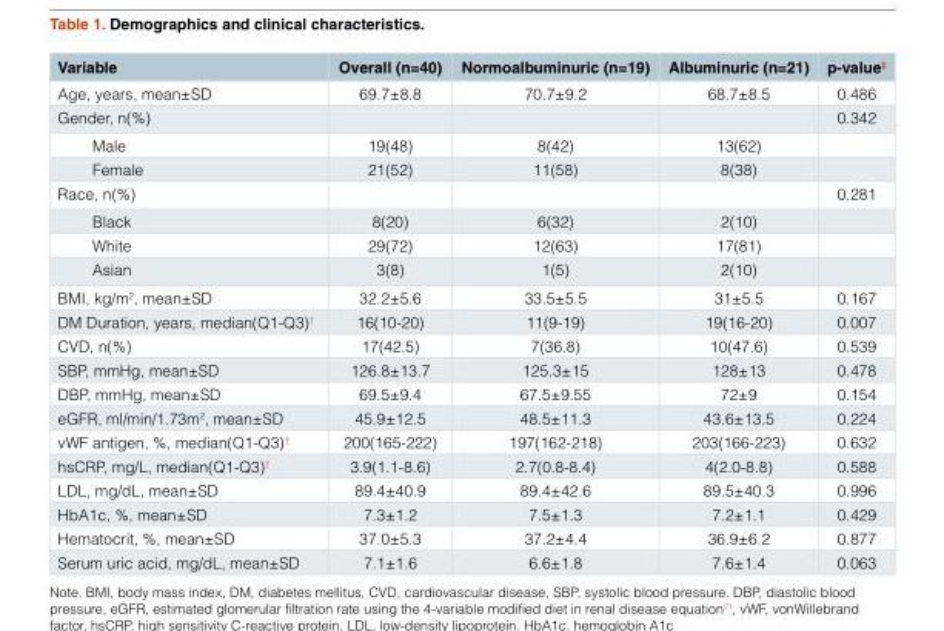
<table><thead><tr><td>Variable</td><td>Overall (n=40)</td><td>Normoalbuminuric (n=19)</td><td>Albuminuric (n=21)</td><td>p-value<sup>‡</sup></td></tr></thead><tbody><tr><td>Age, years, mean±SD</td><td>69.7±8.8</td><td>70.7±9.2</td><td>68.7±8.5</td><td>0.486</td></tr><tr><td>Gender, n(%)</td><td></td><td></td><td></td><td>0.342</td></tr><tr><td>Male</td><td>19(48)</td><td>8(42)</td><td>13(62)</td><td></td></tr><tr><td>Female</td><td>21(52)</td><td>11(58)</td><td>8(38)</td><td></td></tr><tr><td>Race, n(%)</td><td></td><td></td><td></td><td>0.281</td></tr><tr><td>Black</td><td>8(20)</td><td>6(32)</td><td>2(10)</td><td></td></tr><tr><td>White</td><td>29(72)</td><td>12(63)</td><td>17(81)</td><td></td></tr><tr><td>Asian</td><td>3(8)</td><td>1(5)</td><td>2(10)</td><td></td></tr><tr><td>BMI, kg/m<sub>2</sub>, mean±SD</td><td>32.2±5.6</td><td>33.5±5.5</td><td>31±5.5</td><td>0.167</td></tr><tr><td>DM Duration, years, median(Q1-Q3)<sup>†</sup></td><td>16(10-20)</td><td>11(9-19)</td><td>19(16-20)</td><td>0.007</td></tr><tr><td>CVD, n(%)</td><td>17(42.5)</td><td>7(36.8)</td><td>10(47.6)</td><td>0.539</td></tr><tr><td>SBP, mmHg, mean±SD</td><td>126.8±13.7</td><td>125.3±15</td><td>128±13</td><td>0.478</td></tr><tr><td>DBP, mmHg, mean±SD</td><td>69.5±9.4</td><td>67.5±9.55</td><td>72±9</td><td>0.154</td></tr><tr><td>eGFR, ml/min/1.73m<sup>2</sup>, mean±SD</td><td>45.9±12.5</td><td>48.5±11.3</td><td>43.6±13.5</td><td>0.224</td></tr><tr><td>vWF antigen, %, median(Q1-Q3)<sup>†</sup></td><td>200(165-222)</td><td>197(162-218)</td><td>203(166-223)</td><td>0.632</td></tr><tr><td>hsCRP, mg/L, median(Q1-Q3)<sup>†</sup></td><td>3.9(1.1-8.6)</td><td>2.7(0.8-8.4)</td><td>4(2.0-8.8)</td><td>0.588</td></tr><tr><td>LDL, mg/dL, mean±SD</td><td>89.4±40.9</td><td>89.4±42.6</td><td>89.5±40.3</td><td>0.996</td></tr><tr><td>HbA1c, %, mean±SD</td><td>7.3±1.2</td><td>7.5±1.3</td><td>7.2±1.1</td><td>0.429</td></tr><tr><td>Hematocrit, %, mean±SD</td><td>37.0±5.3</td><td>37.2±4.4</td><td>36.9±6.2</td><td>0.877</td></tr><tr><td>Serum uric acid, mg/dL, mean±SD</td><td>7.1±1.6</td><td>6.6±1.8</td><td>7.6±1.4</td><td>0.063</td></tr></tbody></table>